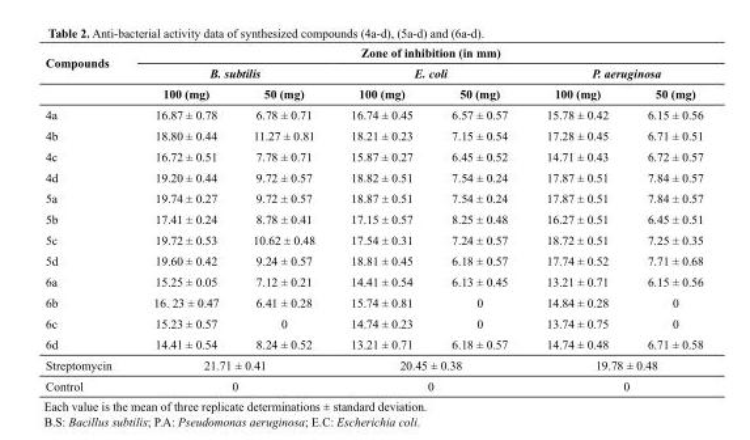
<table><thead><tr><td rowspan="3">Compounds</td><td colspan="6">Zone of inhibition (in mm)</td></tr><tr><td colspan="2">B. subtilis</td><td colspan="2">E. coli</td><td colspan="2">P. aeruginosa</td></tr><tr><td>100 (mg)</td><td>50 (mg)</td><td>100 (mg)</td><td>50 (mg)</td><td>100 (mg)</td><td>50 (mg)</td></tr></thead><tbody><tr><td>4a</td><td>16.87 ± 0.78</td><td>6.78 ± 0.71</td><td>16.74 ± 0.45</td><td>6.57 ± 0.57</td><td>15.78 ± 0.42</td><td>6.15 ± 0.56</td></tr><tr><td>4b</td><td>18.80 ± 0.44</td><td>11.27 ± 0.81</td><td>18.21 ± 0.23</td><td>7.15 ± 0.54</td><td>17.28 ± 0.45</td><td>6.71 ± 0.51</td></tr><tr><td>4c</td><td>16.72 ± 0.51</td><td>7.78 ± 0.71</td><td>15.87 ± 0.27</td><td>6.45 ± 0.52</td><td>14.71 ± 0.43</td><td>6.72 ± 0.57</td></tr><tr><td>4d</td><td>19.20 ± 0.44</td><td>9.72 ± 0.57</td><td>18.82 ± 0.51</td><td>7.54 ± 0.24</td><td>17.87 ± 0.51</td><td>7.84 ± 0.57</td></tr><tr><td>5a</td><td>19.74 ± 0.27</td><td>9.72 ± 0.57</td><td>18.87 ± 0.51</td><td>7.54 ± 0.24</td><td>17.87 ± 0.51</td><td>7.84 ± 0.57</td></tr><tr><td>5b</td><td>17.41 ± 0.24</td><td>8.78 ± 0.41</td><td>17.15 ± 0.57</td><td>8.25 ± 0.48</td><td>16.27 ± 0.51</td><td>6.45 ± 0.51</td></tr><tr><td>5c</td><td>19.72 ± 0.53</td><td>10.62 ± 0.48</td><td>17.54 ± 0.31</td><td>7.24 ± 0.57</td><td>18.72 ± 0.51</td><td>7.25 ± 0.35</td></tr><tr><td>5d</td><td>19.60 ± 0.42</td><td>9.24 ± 0.57</td><td>18.81 ± 0.45</td><td>6.18 ± 0.57</td><td>17.74 ± 0.52</td><td>7.71 ± 0.68</td></tr><tr><td>6a</td><td>15.25 ± 0.05</td><td>7.12 ± 0.21</td><td>14.41 ± 0.54</td><td>6.13 ± 0.45</td><td>13.21 ± 0.71</td><td>6.15 ± 0.56</td></tr><tr><td>6b</td><td>16. 23 ± 0.47</td><td>6.41 ± 0.28</td><td>15.74 ± 0.81</td><td>0</td><td>14.84 ± 0.28</td><td>0</td></tr><tr><td>6c</td><td>15.23 ± 0.57</td><td>0</td><td>14.74 ± 0.23</td><td>0</td><td>13.74 ± 0.75</td><td>0</td></tr><tr><td>6d</td><td>14.41 ± 0.54</td><td>8.24 ± 0.52</td><td>13.21 ± 0.71</td><td>6.18 ± 0.57</td><td>14.74 ± 0.48</td><td>6.71 ± 0.58</td></tr><tr><td>Streptomycin</td><td colspan="2">21.71 ± 0.41</td><td colspan="2">20.45 ± 0.38</td><td colspan="2">19.78 ± 0.48</td></tr><tr><td>Control</td><td colspan="2">0</td><td colspan="2">0</td><td colspan="2">0</td></tr></tbody></table>